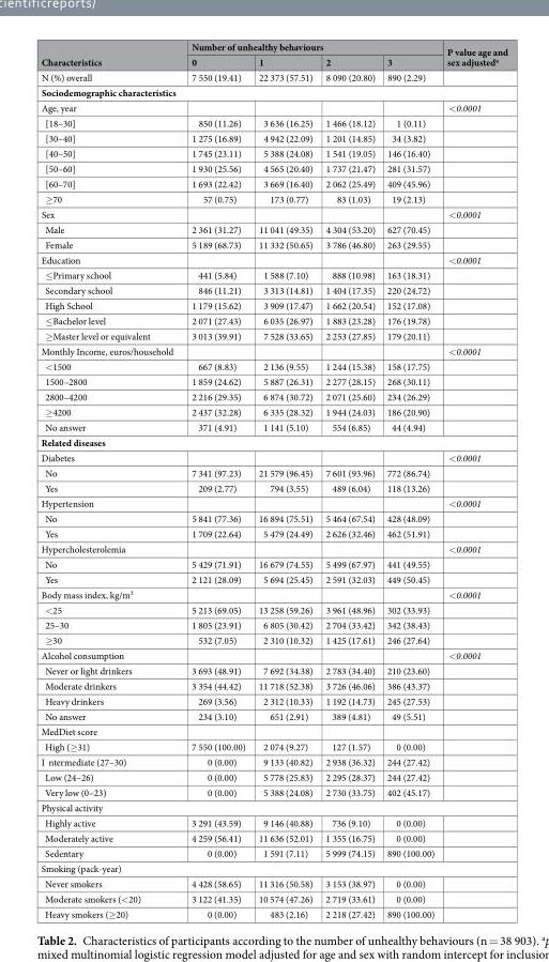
<table><thead><tr><td rowspan="2">Characteristics</td><td colspan="4">Number of unhealthy behaviours</td><td rowspan="2">P value age and sex adjusted<sup>a</sup></td></tr><tr><td>0</td><td>1</td><td>2</td><td>3</td></tr></thead><tbody><tr><td>N (%) overall</td><td>7 550 (19.41)</td><td>22 373 (57.51)</td><td>8 090 (20.80)</td><td>890 (2.29)</td><td></td></tr><tr><td colspan="6">Sociodemographic characteristics</td></tr><tr><td>Age, year</td><td></td><td></td><td></td><td></td><td>&lt;0.0001</td></tr><tr><td>[18–30]</td><td>850 (11.26)</td><td>3 636 (16.25)</td><td>1 466 (18.12)</td><td>1 (0.11)</td><td></td></tr><tr><td>[30–40]</td><td>1 275 (16.89)</td><td>4 942 (22.09)</td><td>1 201 (14.85)</td><td>34 (3.82)</td><td></td></tr><tr><td>[40–50]</td><td>1 745 (23.11)</td><td>5 388 (24.08)</td><td>1 541 (19.05)</td><td>146 (16.40)</td><td></td></tr><tr><td>[50–60]</td><td>1 930 (25.56)</td><td>4 565 (20.40)</td><td>1 737 (21.47)</td><td>281 (31.57)</td><td></td></tr><tr><td>[60–70]</td><td>1 693 (22.42)</td><td>3 669 (16.40)</td><td>2 062 (25.49)</td><td>409 (45.96)</td><td></td></tr><tr><td>≥70</td><td>57 (0.75)</td><td>173 (0.77)</td><td>83 (1.03)</td><td>19 (2.13)</td><td></td></tr><tr><td>Sex</td><td></td><td></td><td></td><td></td><td>&lt;0.0001</td></tr><tr><td>Male</td><td>2 361 (31.27)</td><td>11 041 (49.35)</td><td>4 304 (53.20)</td><td>627 (70.45)</td><td></td></tr><tr><td>Female</td><td>5 189 (68.73)</td><td>11 332 (50.65)</td><td>3 786 (46.80)</td><td>263 (29.55)</td><td></td></tr><tr><td>Education</td><td></td><td></td><td></td><td></td><td>&lt;0.0001</td></tr><tr><td>≤Primary school</td><td>441 (5.84)</td><td>1 588 (7.10)</td><td>888 (10.98)</td><td>163 (18.31)</td><td></td></tr><tr><td>Secondary school</td><td>846 (11.21)</td><td>3 313 (14.81)</td><td>1 404 (17.35)</td><td>220 (24.72)</td><td></td></tr><tr><td>High School</td><td>1 179 (15.62)</td><td>3 909 (17.47)</td><td>1 662 (20.54)</td><td>152 (17.08)</td><td></td></tr><tr><td>≤Bachelor level</td><td>2 071 (27.43)</td><td>6 035 (26.97)</td><td>1 883 (23.28)</td><td>176 (19.78)</td><td></td></tr><tr><td>≥Master level or equivalent</td><td>3 013 (39.91)</td><td>7 528 (33.65)</td><td>2 253 (27.85)</td><td>179 (20.11)</td><td></td></tr><tr><td>Monthly Income, euros/household</td><td></td><td></td><td></td><td></td><td>&lt;0.0001</td></tr><tr><td>&lt;1500</td><td>667 (8.83)</td><td>2 136 (9.55)</td><td>1 244 (15.38)</td><td>158 (17.75)</td><td></td></tr><tr><td>1500–2800</td><td>1 859 (24.62)</td><td>5 887 (26.31)</td><td>2 277 (28.15)</td><td>268 (30.11)</td><td></td></tr><tr><td>2800–4200</td><td>2 216 (29.35)</td><td>6 874 (30.72)</td><td>2 071 (25.60)</td><td>234 (26.29)</td><td></td></tr><tr><td>≥4200</td><td>2 437 (32.28)</td><td>6 335 (28.32)</td><td>1 944 (24.03)</td><td>186 (20.90)</td><td></td></tr><tr><td>No answer</td><td>371 (4.91)</td><td>1 141 (5.10)</td><td>554 (6.85)</td><td>44 (4.94)</td><td></td></tr><tr><td colspan="6">Related diseases</td></tr><tr><td>Diabetes</td><td></td><td></td><td></td><td></td><td>&lt;0.0001</td></tr><tr><td>No</td><td>7 341 (97.23)</td><td>21 579 (96.45)</td><td>7 601 (93.96)</td><td>772 (86.74)</td><td></td></tr><tr><td>Yes</td><td>209 (2.77)</td><td>794 (3.55)</td><td>489 (6.04)</td><td>118 (13.26)</td><td></td></tr><tr><td>Hypertension</td><td></td><td></td><td></td><td></td><td>&lt;0.0001</td></tr><tr><td>No</td><td>5 841 (77.36)</td><td>16 894 (75.51)</td><td>5 464 (67.54)</td><td>428 (48.09)</td><td></td></tr><tr><td>Yes</td><td>1 709 (22.64)</td><td>5 479 (24.49)</td><td>2 626 (32.46)</td><td>462 (51.91)</td><td></td></tr><tr><td>Hypercholesterolemia</td><td></td><td></td><td></td><td></td><td>&lt;0.0001</td></tr><tr><td>No</td><td>5 429 (71.91)</td><td>16 679 (74.55)</td><td>5 499 (67.97)</td><td>441 (49.55)</td><td></td></tr><tr><td>Yes</td><td>2 121 (28.09)</td><td>5 694 (25.45)</td><td>2 591 (32.03)</td><td>449 (50.45)</td><td></td></tr><tr><td>Body mass index, kg/m²</td><td></td><td></td><td></td><td></td><td>&lt;0.0001</td></tr><tr><td>&lt;25</td><td>5 213 (69.05)</td><td>13 258 (59.26)</td><td>3 961 (48.96)</td><td>302 (33.93)</td><td></td></tr><tr><td>25–30</td><td>1 805 (23.91)</td><td>6 805 (30.42)</td><td>2 704 (33.42)</td><td>342 (38.43)</td><td></td></tr><tr><td>≥30</td><td>532 (7.05)</td><td>2 310 (10.32)</td><td>1 425 (17.61)</td><td>246 (27.64)</td><td></td></tr><tr><td>Alcohol consumption</td><td></td><td></td><td></td><td></td><td>&lt;0.0001</td></tr><tr><td>Never or light drinkers</td><td>3 693 (48.91)</td><td>7 692 (34.38)</td><td>2 783 (34.40)</td><td>210 (23.60)</td><td></td></tr><tr><td>Moderate drinkers</td><td>3 354 (44.42)</td><td>11 718 (52.38)</td><td>3 726 (46.06)</td><td>386 (43.37)</td><td></td></tr><tr><td>Heavy drinkers</td><td>269 (3.56)</td><td>2 312 (10.33)</td><td>1 192 (14.73)</td><td>245 (27.53)</td><td></td></tr><tr><td>No answer</td><td>234 (3.10)</td><td>651 (2.91)</td><td>389 (4.81)</td><td>49 (5.51)</td><td></td></tr><tr><td colspan="6">MedDiet score</td></tr><tr><td>High (≥31)</td><td>7 550 (100.00)</td><td>2 074 (9.27)</td><td>127 (1.57)</td><td>0 (0.00)</td><td></td></tr><tr><td>I ntermediate (27–30)</td><td>0 (0.00)</td><td>9 133 (40.82)</td><td>2 938 (36.32)</td><td>244 (27.42)</td><td></td></tr><tr><td>Low (24–26)</td><td>0 (0.00)</td><td>5 778 (25.83)</td><td>2 295 (28.37)</td><td>244 (27.42)</td><td></td></tr><tr><td>Very low (0–23)</td><td>0 (0.00)</td><td>5 388 (24.08)</td><td>2 730 (33.75)</td><td>402 (45.17)</td><td></td></tr><tr><td colspan="6">Physical activity</td></tr><tr><td>Highly active</td><td>3 291 (43.59)</td><td>9 146 (40.88)</td><td>736 (9.10)</td><td>0 (0.00)</td><td></td></tr><tr><td>Moderately active</td><td>4 259 (56.41)</td><td>11 636 (52.01)</td><td>1 355 (16.75)</td><td>0 (0.00)</td><td></td></tr><tr><td>Sedentary</td><td>0 (0.00)</td><td>1 591 (7.11)</td><td>5 999 (74.15)</td><td>890 (100.00)</td><td></td></tr><tr><td colspan="6">Smoking (pack-year)</td></tr><tr><td>Never smokers</td><td>4 428 (58.65)</td><td>11 316 (50.58)</td><td>3 153 (38.97)</td><td>0 (0.00)</td><td></td></tr><tr><td>Moderate smokers (&lt;20)</td><td>3 122 (41.35)</td><td>10 574 (47.26)</td><td>2 719 (33.61)</td><td>0 (0.00)</td><td></td></tr><tr><td>Heavy smokers (≥20)</td><td>0 (0.00)</td><td>483 (2.16)</td><td>2 218 (27.42)</td><td>890 (100.00)</td><td></td></tr></tbody></table>